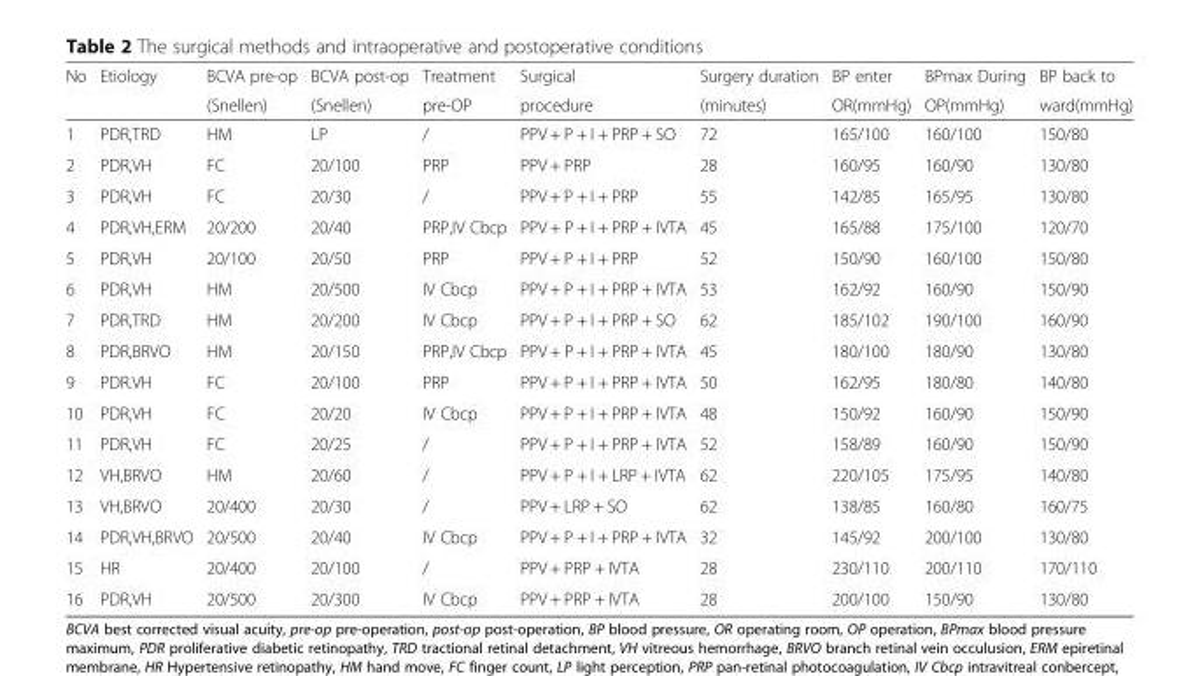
<table><thead><tr><td rowspan="2">No</td><td rowspan="2">Etiology</td><td rowspan="2">BCVA pre-op (Snellen)</td><td rowspan="2">BCVA post-op (Snellen)</td><td rowspan="2">Treatment pre-OP</td><td rowspan="2">Surgical procedure</td><td rowspan="2">Surgery duration (minutes)</td><td rowspan="2">BP enter OR(mmHg)</td><td rowspan="2">BPmax During OP(mmHg)</td><td rowspan="2">BP back to ward(mmHg)</td></tr><tr></tr></thead><tbody><tr><td>1</td><td>PDR,TRD</td><td>HM</td><td>LP</td><td>/</td><td>PPV + P + I + PRP + SO</td><td>72</td><td>165/100</td><td>160/100</td><td>150/80</td></tr><tr><td>2</td><td>PDR,VH</td><td>FC</td><td>20/100</td><td>PRP</td><td>PPV + PRP</td><td>28</td><td>160/95</td><td>160/90</td><td>130/80</td></tr><tr><td>3</td><td>PDR,VH</td><td>FC</td><td>20/30</td><td>/</td><td>PPV + P + I + PRP</td><td>55</td><td>142/85</td><td>165/95</td><td>130/80</td></tr><tr><td>4</td><td>PDR,VH,ERM</td><td>20/200</td><td>20/40</td><td>PRP,IV Cbcp</td><td>PPV + P + I + PRP + IVTA</td><td>45</td><td>165/88</td><td>175/100</td><td>120/70</td></tr><tr><td>5</td><td>PDR,VH</td><td>20/100</td><td>20/50</td><td>PRP</td><td>PPV + P + I + PRP</td><td>52</td><td>150/90</td><td>160/100</td><td>150/80</td></tr><tr><td>6</td><td>PDR,VH</td><td>HM</td><td>20/500</td><td>IV Cbcp</td><td>PPV + P + I + PRP + IVTA</td><td>53</td><td>162/92</td><td>160/90</td><td>150/90</td></tr><tr><td>7</td><td>PDR,TRD</td><td>HM</td><td>20/200</td><td>IV Cbcp</td><td>PPV + P + I + PRP + SO</td><td>62</td><td>185/102</td><td>190/100</td><td>160/90</td></tr><tr><td>8</td><td>PDR,BRVO</td><td>HM</td><td>20/150</td><td>PRP,IV Cbcp</td><td>PPV + P + I + PRP + IVTA</td><td>45</td><td>180/100</td><td>180/90</td><td>130/80</td></tr><tr><td>9</td><td>PDR.VH</td><td>FC</td><td>20/100</td><td>PRP</td><td>PPV + P + I + PRP + IVTA</td><td>50</td><td>162/95</td><td>180/80</td><td>140/80</td></tr><tr><td>10</td><td>PDR,VH</td><td>FC</td><td>20/20</td><td>IV Cbcp</td><td>PPV + P + I + PRP + IVTA</td><td>48</td><td>150/92</td><td>160/90</td><td>150/90</td></tr><tr><td>11</td><td>PDR,VH</td><td>FC</td><td>20/25</td><td>/</td><td>PPV + P + I + PRP + IVTA</td><td>52</td><td>158/89</td><td>160/90</td><td>150/90</td></tr><tr><td>12</td><td>VH,BRVO</td><td>HM</td><td>20/60</td><td>/</td><td>PPV + P + I + LRP + IVTA</td><td>62</td><td>220/105</td><td>175/95</td><td>140/80</td></tr><tr><td>13</td><td>VH,BRVO</td><td>20/400</td><td>20/30</td><td>/</td><td>PPV + LRP + SO</td><td>62</td><td>138/85</td><td>160/80</td><td>160/75</td></tr><tr><td>14</td><td>PDR,VH,BRVO</td><td>20/500</td><td>20/40</td><td>IV Cbcp</td><td>PPV + P + I + PRP + IVTA</td><td>32</td><td>145/92</td><td>200/100</td><td>130/80</td></tr><tr><td>15</td><td>HR</td><td>20/400</td><td>20/100</td><td>/</td><td>PPV + PRP + IVTA</td><td>28</td><td>230/110</td><td>200/110</td><td>170/110</td></tr><tr><td>16</td><td>PDR,VH</td><td>20/500</td><td>20/300</td><td>IV Cbcp</td><td>PPV + PRP + IVTA</td><td>28</td><td>200/100</td><td>150/90</td><td>130/80</td></tr></tbody></table>